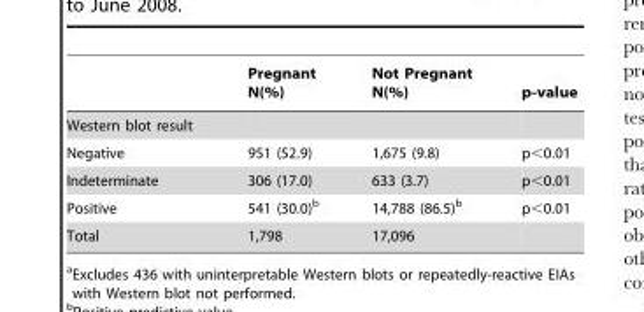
<table><thead><tr><td></td><td>Pregnant N(%)</td><td>Not Pregnant N(%)</td><td>p-value</td></tr></thead><tbody><tr><td colspan="4">Western blot result</td></tr><tr><td>Negative</td><td>951 (52.9)</td><td>1,675 (9.8)</td><td>p&lt;0.01</td></tr><tr><td>Indeterminate</td><td>306 (17.0)</td><td>633 (3.7)</td><td>p&lt;0.01</td></tr><tr><td>Positive</td><td>541 (30.0)<sup>b</sup></td><td>14,788 (86.5)<sup>b</sup></td><td>p&lt;0.01</td></tr><tr><td>Total</td><td>1,798</td><td>17,096</td><td></td></tr></tbody></table>